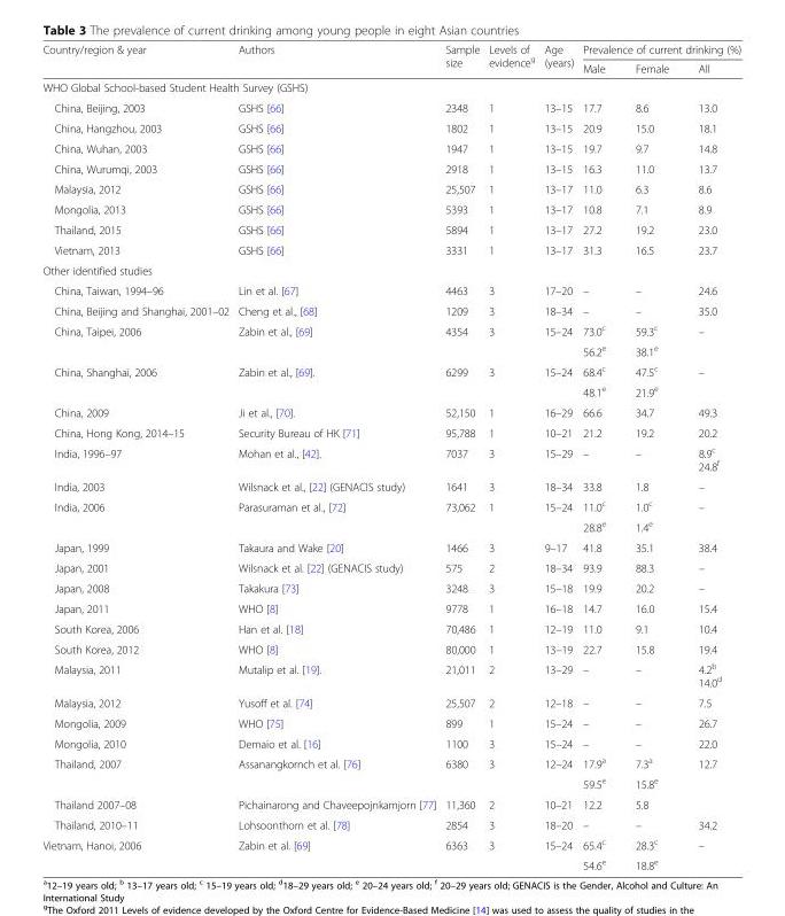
<table><thead><tr><td rowspan="2">Country/region &amp; year</td><td rowspan="2">Authors</td><td rowspan="2">Sample size</td><td rowspan="2">Levels of evidence<sup>g</sup></td><td rowspan="2">Age (years)</td><td colspan="3">Prevalence of current drinking (%)</td></tr><tr><td>Male</td><td>Female</td><td>All</td></tr></thead><tbody><tr><td colspan="8">WHO Global School-based Student Health Survey (GSHS)</td></tr><tr><td>China, Beijing, 2003</td><td>GSHS [66]</td><td>2348</td><td>1</td><td>13–15</td><td>17.7</td><td>8.6</td><td>13.0</td></tr><tr><td>China, Hangzhou, 2003</td><td>GSHS [66]</td><td>1802</td><td>1</td><td>13–15</td><td>20.9</td><td>15.0</td><td>18.1</td></tr><tr><td>China, Wuhan, 2003</td><td>GSHS [66]</td><td>1947</td><td>1</td><td>13–15</td><td>19.7</td><td>9.7</td><td>14.8</td></tr><tr><td>China, Wurumqi, 2003</td><td>GSHS [66]</td><td>2918</td><td>1</td><td>13–15</td><td>16.3</td><td>11.0</td><td>13.7</td></tr><tr><td>Malaysia, 2012</td><td>GSHS [66]</td><td>25,507</td><td>1</td><td>13–17</td><td>11.0</td><td>6.3</td><td>8.6</td></tr><tr><td>Mongolia, 2013</td><td>GSHS [66]</td><td>5393</td><td>1</td><td>13–17</td><td>10.8</td><td>7.1</td><td>8.9</td></tr><tr><td>Thailand, 2015</td><td>GSHS [66]</td><td>5894</td><td>1</td><td>13–17</td><td>27.2</td><td>19.2</td><td>23.0</td></tr><tr><td>Vietnam, 2013</td><td>GSHS [66]</td><td>3331</td><td>1</td><td>13–17</td><td>31.3</td><td>16.5</td><td>23.7</td></tr><tr><td colspan="8">Other identified studies</td></tr><tr><td>China, Taiwan, 1994–96</td><td>Lin et al. [67]</td><td>4463</td><td>3</td><td>17–20</td><td>–</td><td>–</td><td>24.6</td></tr><tr><td>China, Beijing and Shanghai, 2001–02</td><td>Cheng et al., [68]</td><td>1209</td><td>3</td><td>18–34</td><td>–</td><td>–</td><td>35.0</td></tr><tr><td rowspan="2">China, Taipei, 2006</td><td rowspan="2">Zabin et al., [69]</td><td rowspan="2">4354</td><td rowspan="2">3</td><td rowspan="2">15–24</td><td>73.0<sup>c</sup></td><td>59.3<sup>c</sup></td><td rowspan="2">–</td></tr><tr><td>56.2<sup>e</sup></td><td>38.1<sup>e</sup></td></tr><tr><td rowspan="2">China, Shanghai, 2006</td><td rowspan="2">Zabin et al., [69].</td><td rowspan="2">6299</td><td rowspan="2">3</td><td rowspan="2">15–24</td><td>68.4<sup>c</sup></td><td>47.5<sup>c</sup></td><td rowspan="2">–</td></tr><tr><td>48.1<sup>e</sup></td><td>21.9<sup>e</sup></td></tr><tr><td>China, 2009</td><td>Ji et al., [70].</td><td>52,150</td><td>1</td><td>16–29</td><td>66.6</td><td>34.7</td><td>49.3</td></tr><tr><td>China, Hong Kong, 2014–15</td><td>Security Bureau of HK [71]</td><td>95,788</td><td>1</td><td>10–21</td><td>21.2</td><td>19.2</td><td>20.2</td></tr><tr><td>India, 1996–97</td><td>Mohan et al., [42].</td><td>7037</td><td>3</td><td>15–29</td><td>–</td><td>–</td><td>8.9<sup>c</sup> 24.8<sup>f</sup></td></tr><tr><td>India, 2003</td><td>Wilsnack et al., [22] (GENACIS study)</td><td>1641</td><td>3</td><td>18–34</td><td>33.8</td><td>1.8</td><td>–</td></tr><tr><td rowspan="2">India, 2006</td><td rowspan="2">Parasuraman et al., [72]</td><td rowspan="2">73,062</td><td rowspan="2">1</td><td rowspan="2">15–24</td><td>11.0<sup>c</sup></td><td>1.0<sup>c</sup></td><td rowspan="2">–</td></tr><tr><td>28.8<sup>e</sup></td><td>1.4<sup>e</sup></td></tr><tr><td>Japan, 1999</td><td>Takaura and Wake [20]</td><td>1466</td><td>3</td><td>9–17</td><td>41.8</td><td>35.1</td><td>38.4</td></tr><tr><td>Japan, 2001</td><td>Wilsnack et al. [22] (GENACIS study)</td><td>575</td><td>2</td><td>18–34</td><td>93.9</td><td>88.3</td><td>–</td></tr><tr><td>Japan, 2008</td><td>Takakura [73]</td><td>3248</td><td>3</td><td>15–18</td><td>19.9</td><td>20.2</td><td>–</td></tr><tr><td>Japan, 2011</td><td>WHO [8]</td><td>9778</td><td>1</td><td>16–18</td><td>14.7</td><td>16.0</td><td>15.4</td></tr><tr><td>South Korea, 2006</td><td>Han et al. [18]</td><td>70,486</td><td>1</td><td>12–19</td><td>11.0</td><td>9.1</td><td>10.4</td></tr><tr><td>South Korea, 2012</td><td>WHO [8]</td><td>80,000</td><td>1</td><td>13–19</td><td>22.7</td><td>15.8</td><td>19.4</td></tr><tr><td>Malaysia, 2011</td><td>Mutalip et al. [19].</td><td>21,011</td><td>2</td><td>13–29</td><td>–</td><td>–</td><td>4.2<sup>b</sup> 14.0<sup>d</sup></td></tr><tr><td>Malaysia, 2012</td><td>Yusoff et al. [74]</td><td>25,507</td><td>2</td><td>12–18</td><td>–</td><td>–</td><td>7.5</td></tr><tr><td>Mongolia, 2009</td><td>WHO [75]</td><td>899</td><td>1</td><td>15–24</td><td>–</td><td>–</td><td>26.7</td></tr><tr><td>Mongolia, 2010</td><td>Demaio et al. [16]</td><td>1100</td><td>3</td><td>15–24</td><td>–</td><td>–</td><td>22.0</td></tr><tr><td rowspan="2">Thailand, 2007</td><td rowspan="2">Assanangkornch et al. [76]</td><td rowspan="2">6380</td><td rowspan="2">3</td><td rowspan="2">12–24</td><td>17.9<sup>a</sup></td><td>7.3<sup>a</sup></td><td rowspan="2">12.7</td></tr><tr><td>59.5<sup>e</sup></td><td>15.8<sup>e</sup></td></tr><tr><td>Thailand 2007–08</td><td>Pichainarong and Chaveepojnkamjorn [77]</td><td>11,360</td><td>2</td><td>10–21</td><td>12.2</td><td>5.8</td><td></td></tr><tr><td>Thailand, 2010–11</td><td>Lohsoonthorn et al. [78]</td><td>2854</td><td>3</td><td>18–20</td><td>–</td><td>–</td><td>34.2</td></tr><tr><td rowspan="2">Vietnam, Hanoi, 2006</td><td rowspan="2">Zabin et al. [69]</td><td rowspan="2">6363</td><td rowspan="2">3</td><td rowspan="2">15–24</td><td>65.4<sup>c</sup></td><td>28.3<sup>c</sup></td><td rowspan="2">–</td></tr><tr><td>54.6<sup>e</sup></td><td>18.8<sup>e</sup></td></tr></tbody></table>